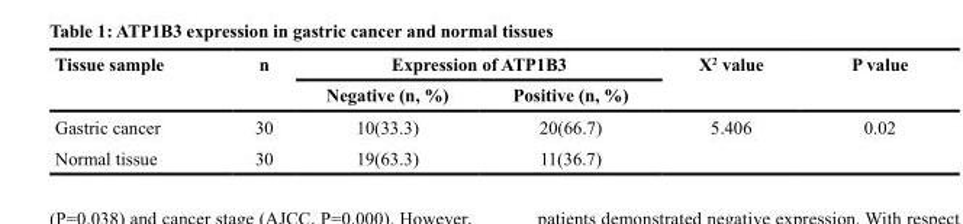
<table><thead><tr><td rowspan="2">Tissue sample</td><td rowspan="2">n</td><td colspan="2">Expression of ATP1B3</td><td rowspan="2">X<sup>2</sup> value</td><td rowspan="2">P value</td></tr><tr><td>Negative (n, %)</td><td>Positive (n, %)</td></tr></thead><tbody><tr><td>Gastric cancer</td><td>30</td><td>10(33.3)</td><td>20(66.7)</td><td>5.406</td><td>0.02</td></tr><tr><td>Normal tissue</td><td>30</td><td>19(63.3)</td><td>11(36.7)</td><td></td><td></td></tr></tbody></table>